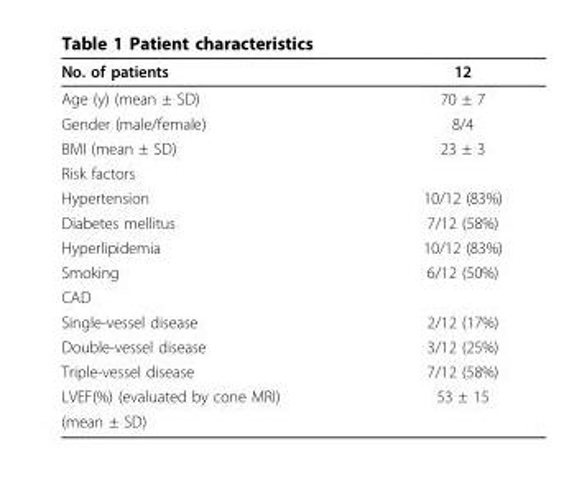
<table><thead><tr><td>No. of patients</td><td>12</td></tr></thead><tbody><tr><td>Age (y) (mean ± SD)</td><td>70 ± 7</td></tr><tr><td>Gender (male/female)</td><td>8/4</td></tr><tr><td>BMI (mean ± SD)</td><td>23 ± 3</td></tr><tr><td colspan="2">Risk factors</td></tr><tr><td>Hypertension</td><td>10/12 (83%)</td></tr><tr><td>Diabetes mellitus</td><td>7/12 (58%)</td></tr><tr><td>Hyperlipidemia</td><td>10/12 (83%)</td></tr><tr><td>Smoking</td><td>6/12 (50%)</td></tr><tr><td colspan="2">CAD</td></tr><tr><td>Single-vessel disease</td><td>2/12 (17%)</td></tr><tr><td>Double-vessel disease</td><td>3/12 (25%)</td></tr><tr><td>Triple-vessel disease</td><td>7/12 (58%)</td></tr><tr><td>LVEF(%) (evaluated by cone MRI)</td><td>53 ± 15</td></tr><tr><td>(mean ± SD)</td><td></td></tr></tbody></table>